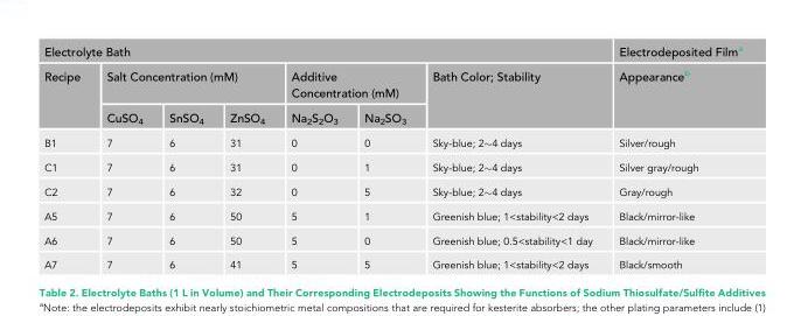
<table><thead><tr><td colspan="7">Electrolyte Bath</td><td rowspan="3">Electrodeposited Film<sup>a</sup> Appearance<sup>b</sup></td></tr><tr><td rowspan="2">Recipe</td><td colspan="3">Salt Concentration (mM)</td><td colspan="2">Additive Concentration (mM)</td><td rowspan="2">Bath Color; Stability</td></tr><tr><td>CuSO<sub>4</sub></td><td>SnSO<sub>4</sub></td><td>ZnSO<sub>4</sub></td><td>Na<sub>2</sub>S<sub>2</sub>O<sub>3</sub></td><td>Na<sub>2</sub>SO<sub>3</sub></td></tr></thead><tbody><tr><td>B1</td><td>7</td><td>6</td><td>31</td><td>0</td><td>0</td><td>Sky-blue; 2∼4 days</td><td>Silver/rough</td></tr><tr><td>C1</td><td>7</td><td>6</td><td>31</td><td>0</td><td>1</td><td>Sky-blue; 2∼4 days</td><td>Silver gray/rough</td></tr><tr><td>C2</td><td>7</td><td>6</td><td>32</td><td>0</td><td>5</td><td>Sky-blue; 2∼4 days</td><td>Gray/rough</td></tr><tr><td>A5</td><td>7</td><td>6</td><td>50</td><td>5</td><td>1</td><td>Greenish blue; 1&lt;stability&lt;2 days</td><td>Black/mirror-like</td></tr><tr><td>A6</td><td>7</td><td>6</td><td>50</td><td>5</td><td>0</td><td>Greenish blue; 0.5&lt;stability&lt;1 day</td><td>Black/mirror-like</td></tr><tr><td>A7</td><td>7</td><td>6</td><td>41</td><td>5</td><td>5</td><td>Greenish blue; 1&lt;stability&lt;2 days</td><td>Black/smooth</td></tr></tbody></table>